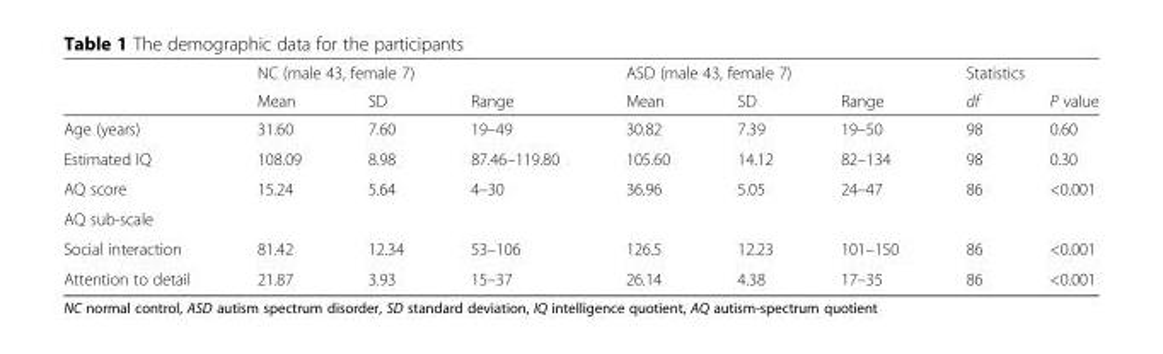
<table><thead><tr><td rowspan="2"></td><td colspan="3">NC (male 43, female 7)</td><td colspan="3">ASD (male 43, female 7)</td><td colspan="2">Statistics</td></tr><tr><td>Mean</td><td>SD</td><td>Range</td><td>Mean</td><td>SD</td><td>Range</td><td>df</td><td>P value</td></tr></thead><tbody><tr><td>Age (years)</td><td>31.60</td><td>7.60</td><td>19–49</td><td>30.82</td><td>7.39</td><td>19–50</td><td>98</td><td>0.60</td></tr><tr><td>Estimated IQ</td><td>108.09</td><td>8.98</td><td>87.46–119.80</td><td>105.60</td><td>14.12</td><td>82–134</td><td>98</td><td>0.30</td></tr><tr><td>AQ score</td><td>15.24</td><td>5.64</td><td>4–30</td><td>36.96</td><td>5.05</td><td>24–47</td><td>86</td><td>&lt;0.001</td></tr><tr><td colspan="9">AQ sub-scale</td></tr><tr><td>Social interaction</td><td>81.42</td><td>12.34</td><td>53–106</td><td>126.5</td><td>12.23</td><td>101–150</td><td>86</td><td>&lt;0.001</td></tr><tr><td>Attention to detail</td><td>21.87</td><td>3.93</td><td>15–37</td><td>26.14</td><td>4.38</td><td>17–35</td><td>86</td><td>&lt;0.001</td></tr></tbody></table>